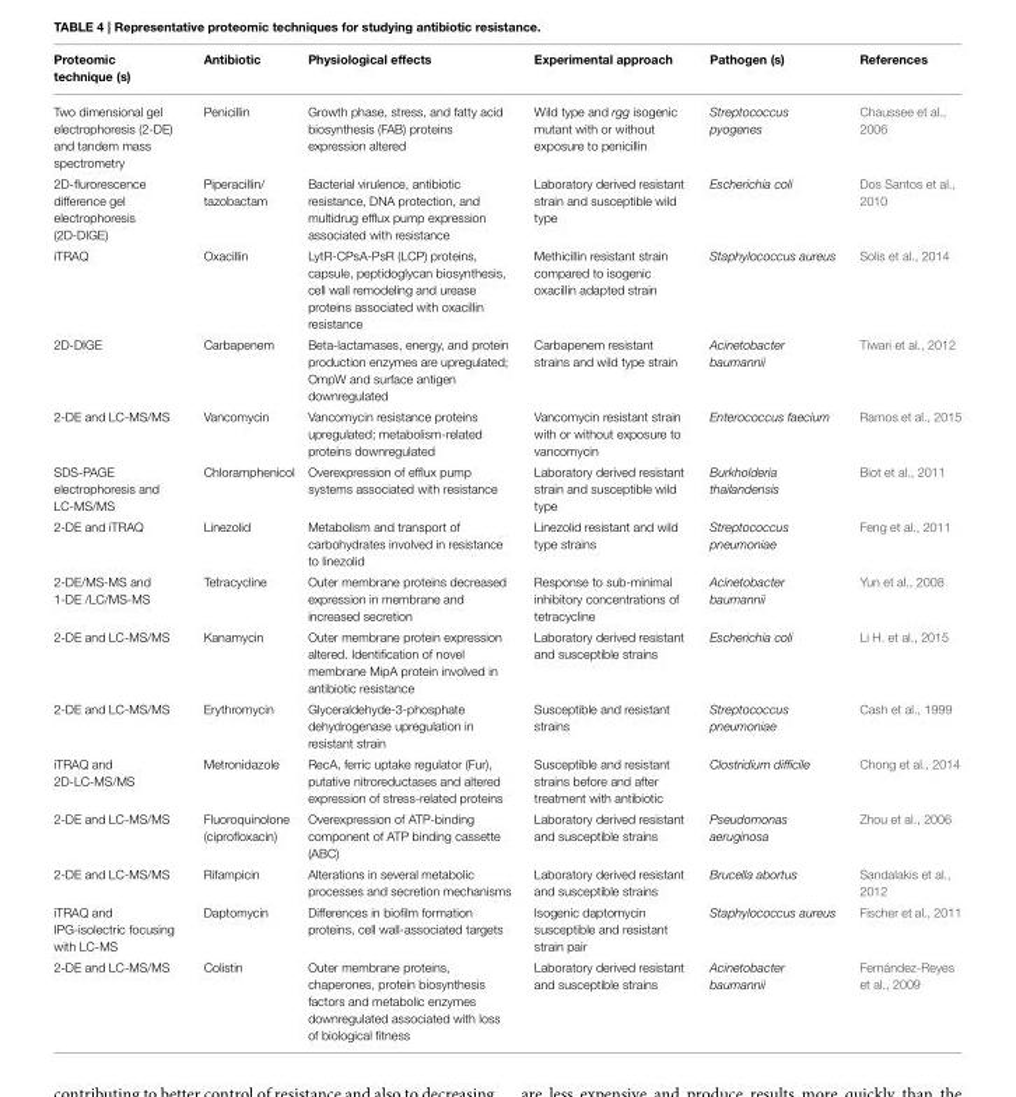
<table><thead><tr><td>Proteomic technique (s)</td><td>Antibiotic</td><td>Physiological effects</td><td>Experimental approach</td><td>Pathogen (s)</td><td>References</td></tr></thead><tbody><tr><td>Two dimensional gel electrophoresis (2-DE) and tandem mass spectrometry</td><td>Penicillin</td><td>Growth phase, stress, and fatty acid biosynthesis (FAB) proteins expression altered</td><td>Wild type and rgg isogenic mutant with or without exposure to penicillin</td><td>Streptococcus pyogenes</td><td>Chaussee et al., 2006</td></tr><tr><td>2D-flurorescence difference gel electrophoresis (2D-DIGE)</td><td>Piperacillin/ tazobactam</td><td>Bacterial virulence, antibiotic resistance, DNA protection, and multidrug efflux pump expression associated with resistance</td><td>Laboratory derived resistant strain and susceptible wild type</td><td>Escherichia coli</td><td>Dos Santos et al., 2010</td></tr><tr><td>iTRAQ</td><td>Oxacillin</td><td>LytR-CPsA-PsR (LCP) proteins, capsule, peptidoglycan biosynthesis, cell wall remodeling and urease proteins associated with oxacillin resistance</td><td>Methicillin resistant strain compared to isogenic oxacillin adapted strain</td><td>Staphylococcus aureus</td><td>Solis et al., 2014</td></tr><tr><td>2D-DIGE</td><td>Carbapenem</td><td>Beta-lactamases, energy, and protein production enzymes are upregulated; OmpW and surface antigen downregulated</td><td>Carbapenem resistant strains and wild type strain</td><td>Acinetobacter baumannii</td><td>Tiwari et al., 2012</td></tr><tr><td>2-DE and LC-MS/MS</td><td>Vancomycin</td><td>Vancomycin resistance proteins upregulated; metabolism-related proteins downregulated</td><td>Vancomycin resistant strain with or without exposure to vancomycin</td><td>Enterococcus faecium</td><td>Ramos et al., 2015</td></tr><tr><td>SDS-PAGE electrophoresis and LC-MS/MS</td><td>Chloramphenicol</td><td>Overexpression of efflux pump systems associated with resistance</td><td>Laboratory derived resistant strain and susceptible wild type</td><td>Burkholderia thailandensis</td><td>Biot et al., 2011</td></tr><tr><td>2-DE and iTRAQ</td><td>Linezolid</td><td>Metabolism and transport of carbohydrates involved in resistance to linezolid</td><td>Linezolid resistant and wild type strains</td><td>Streptococcus pneumoniae</td><td>Feng et al., 2011</td></tr><tr><td>2-DE/MS-MS and 1-DE /LC/MS-MS</td><td>Tetracycline</td><td>Outer membrane proteins decreased expression in membrane and increased secretion</td><td>Response to sub-minimal inhibitory concentrations of tetracycline</td><td>Acinetobacter baumannii</td><td>Yun et al., 2008</td></tr><tr><td>2-DE and LC-MS/MS</td><td>Kanamycin</td><td>Outer membrane protein expression altered. Identification of novel membrane MipA protein involved in antibiotic resistance</td><td>Laboratory derived resistant and susceptible strains</td><td>Escherichia coli</td><td>Li H. et al., 2015</td></tr><tr><td>2-DE and LC-MS/MS</td><td>Erythromycin</td><td>Glyceraldehyde-3-phosphate dehydrogenase upregulation in resistant strain</td><td>Susceptible and resistant strains</td><td>Streptococcus pneumoniae</td><td>Cash et al., 1999</td></tr><tr><td>iTRAQ and 2D-LC-MS/MS</td><td>Metronidazole</td><td>RecA, ferric uptake regulator (Fur), putative nitroreductases and altered expression of stress-related proteins</td><td>Susceptible and resistant strains before and after treatment with antibiotic</td><td>Clostridium difficile</td><td>Chong et al., 2014</td></tr><tr><td>2-DE and LC-MS/MS</td><td>Fluoroquinolone (ciprofloxacin)</td><td>Overexpression of ATP-binding component of ATP binding cassette (ABC)</td><td>Laboratory derived resistant and susceptible strains</td><td>Pseudomonas aeruginosa</td><td>Zhou et al., 2006</td></tr><tr><td>2-DE and LC-MS/MS</td><td>Rifampicin</td><td>Alterations in several metabolic processes and secretion mechanisms</td><td>Laboratory derived resistant and susceptible strains</td><td>Brucella abortus</td><td>Sandalakis et al., 2012</td></tr><tr><td>iTRAQ and IPG-isolectric focusing with LC-MS</td><td>Daptomycin</td><td>Differences in biofilm formation proteins, cell wall-associated targets</td><td>Isogenic daptomycin susceptible and resistant strain pair</td><td>Staphylococcus aureus</td><td>Fischer et al., 2011</td></tr><tr><td>2-DE and LC-MS/MS</td><td>Colistin</td><td>Outer membrane proteins, chaperones, protein biosynthesis factors and metabolic enzymes downregulated associated with loss of biological fitness</td><td>Laboratory derived resistant and susceptible strains</td><td>Acinetobacter baumannii</td><td>Fernández-Reyes et al., 2009</td></tr></tbody></table>